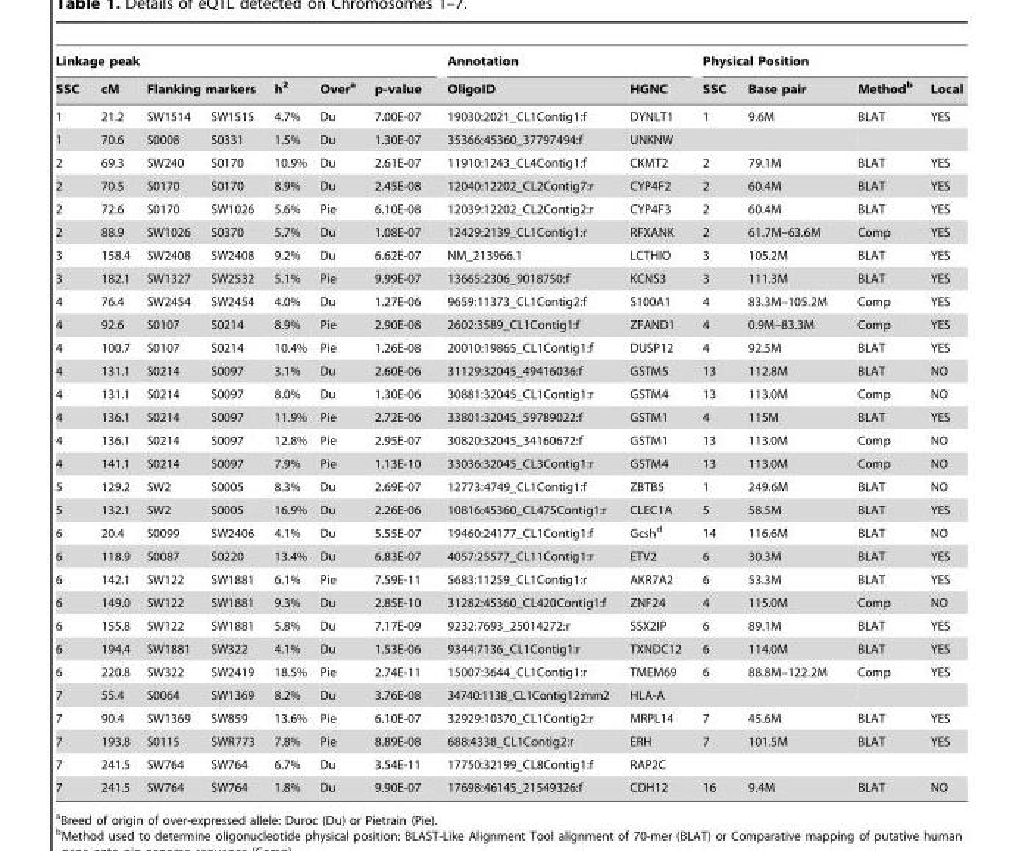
<table><thead><tr><td colspan="7">Linkage peak</td><td colspan="2">Annotation</td><td colspan="4">Physical Position</td></tr><tr><td rowspan="2">SSC 1</td><td rowspan="2">cM 21.2</td><td colspan="2">Flanking markers</td><td rowspan="2">h<sup>2</sup> 4.7%</td><td rowspan="2">Over<sup>a</sup> Du</td><td rowspan="2">p-value 7.00E-07</td><td rowspan="2">OligoID 19030:2021_CL1Contig1:f</td><td rowspan="2">HGNC DYNLT1</td><td rowspan="2">SSC 1</td><td rowspan="2">Base pair 9.6M</td><td rowspan="2">Method<sup>b</sup> BLAT</td><td rowspan="2">Local YES</td></tr><tr><td>SW1514</td><td>SW1515</td></tr></thead><tbody><tr><td>1</td><td>70.6</td><td>S0008</td><td>S0331</td><td>1.5%</td><td>Du</td><td>1.30E-07</td><td>35366:45360_37797494:f</td><td>UNKNW</td><td></td><td></td><td></td><td></td></tr><tr><td>2</td><td>69.3</td><td>SW240</td><td>S0170</td><td>10.9%</td><td>Du</td><td>2.61E-07</td><td>11910:1243_CL4Contig1:f</td><td>CKMT2</td><td>2</td><td>79.1M</td><td>BLAT</td><td>YES</td></tr><tr><td>2</td><td>70.5</td><td>S0170</td><td>S0170</td><td>8.9%</td><td>Du</td><td>2.45E-08</td><td>12040:12202_CL2Contig7:r</td><td>CYP4F2</td><td>2</td><td>60.4M</td><td>BLAT</td><td>YES</td></tr><tr><td>2</td><td>72.6</td><td>S0170</td><td>SW1026</td><td>5.6%</td><td>Pie</td><td>6.10E-08</td><td>12039:12202_CL2Contig2:r</td><td>CYP4F3</td><td>2</td><td>60.4M</td><td>BLAT</td><td>YES</td></tr><tr><td>2</td><td>88.9</td><td>SW1026</td><td>S0370</td><td>5.7%</td><td>Du</td><td>1.08E-07</td><td>12429:2139_CL1Contig1:r</td><td>RFXANK</td><td>2</td><td>61.7M–63.6M</td><td>Comp</td><td>YES</td></tr><tr><td>3</td><td>158.4</td><td>SW2408</td><td>SW2408</td><td>9.2%</td><td>Du</td><td>6.62E-07</td><td>NM_213966.1</td><td>LCTHIO</td><td>3</td><td>105.2M</td><td>BLAT</td><td>YES</td></tr><tr><td>3</td><td>182.1</td><td>SW1327</td><td>SW2532</td><td>5.1%</td><td>Pie</td><td>9.99E-07</td><td>13665:2306_9018750:f</td><td>KCNS3</td><td>3</td><td>111.3M</td><td>BLAT</td><td>YES</td></tr><tr><td>4</td><td>76.4</td><td>SW2454</td><td>SW2454</td><td>4.0%</td><td>Du</td><td>1.27E-06</td><td>9659:11373_CL1Contig2:f</td><td>S100A1</td><td>4</td><td>83.3M–105.2M</td><td>Comp</td><td>YES</td></tr><tr><td>4</td><td>92.6</td><td>S0107</td><td>S0214</td><td>8.9%</td><td>Pie</td><td>2.90E-08</td><td>2602:3589_CL1Contig1:f</td><td>ZFAND1</td><td>4</td><td>0.9M–83.3M</td><td>Comp</td><td>YES</td></tr><tr><td>4</td><td>100.7</td><td>S0107</td><td>S0214</td><td>10.4%</td><td>Pie</td><td>1.26E-08</td><td>20010:19865_CL1Contig1:f</td><td>DUSP12</td><td>4</td><td>92.5M</td><td>BLAT</td><td>YES</td></tr><tr><td>4</td><td>131.1</td><td>S0214</td><td>S0097</td><td>3.1%</td><td>Du</td><td>2.60E-06</td><td>31129:32045_49416036:f</td><td>GSTM5</td><td>13</td><td>112.8M</td><td>BLAT</td><td>NO</td></tr><tr><td>4</td><td>131.1</td><td>S0214</td><td>S0097</td><td>8.0%</td><td>Du</td><td>1.30E-06</td><td>30881:32045_CL1Contig1:r</td><td>GSTM4</td><td>13</td><td>113.0M</td><td>Comp</td><td>NO</td></tr><tr><td>4</td><td>136.1</td><td>S0214</td><td>S0097</td><td>11.9%</td><td>Pie</td><td>2.72E-06</td><td>33801:32045_59789022:f</td><td>GSTM1</td><td>4</td><td>115M</td><td>BLAT</td><td>YES</td></tr><tr><td>4</td><td>136.1</td><td>S0214</td><td>S0097</td><td>12.8%</td><td>Pie</td><td>2.95E-07</td><td>30820:32045_34160672:f</td><td>GSTM1</td><td>13</td><td>113.0M</td><td>Comp</td><td>NO</td></tr><tr><td>4</td><td>141.1</td><td>S0214</td><td>S0097</td><td>7.9%</td><td>Pie</td><td>1.13E-10</td><td>33036:32045_CL3Contig1:r</td><td>GSTM4</td><td>13</td><td>113.0M</td><td>Comp</td><td>NO</td></tr><tr><td>5</td><td>129.2</td><td>SW2</td><td>S0005</td><td>8.3%</td><td>Du</td><td>2.69E-07</td><td>12773:4749_CL1Contig1:f</td><td>ZBTB5</td><td>1</td><td>249.6M</td><td>BLAT</td><td>NO</td></tr><tr><td>5</td><td>132.1</td><td>SW2</td><td>S0005</td><td>16.9%</td><td>Du</td><td>2.26E-06</td><td>10816:45360_CL475Contig1:r</td><td>CLEC1A</td><td>5</td><td>58.5M</td><td>BLAT</td><td>YES</td></tr><tr><td>6</td><td>20.4</td><td>S0099</td><td>SW2406</td><td>4.1%</td><td>Du</td><td>5.55E-07</td><td>19460:24177_CL1Contig1:f</td><td>Gcsh<sup>d</sup></td><td>14</td><td>116.6M</td><td>BLAT</td><td>NO</td></tr><tr><td>6</td><td>118.9</td><td>S0087</td><td>S0220</td><td>13.4%</td><td>Du</td><td>6.83E-07</td><td>4057:25577_CL11Contig1:r</td><td>ETV2</td><td>6</td><td>30.3M</td><td>BLAT</td><td>YES</td></tr><tr><td>6</td><td>142.1</td><td>SW122</td><td>SW1881</td><td>6.1%</td><td>Pie</td><td>7.59E-11</td><td>5683:11259_CL1Contig1:r</td><td>AKR7A2</td><td>6</td><td>53.3M</td><td>BLAT</td><td>YES</td></tr><tr><td>6</td><td>149.0</td><td>SW122</td><td>SW1881</td><td>9.3%</td><td>Du</td><td>2.85E-10</td><td>31282:45360_CL420Contig1:f</td><td>ZNF24</td><td>4</td><td>115.0M</td><td>Comp</td><td>NO</td></tr><tr><td>6</td><td>155.8</td><td>SW122</td><td>SW1881</td><td>5.8%</td><td>Du</td><td>7.17E-09</td><td>9232:7693_25014272:r</td><td>SSX2IP</td><td>6</td><td>89.1M</td><td>BLAT</td><td>YES</td></tr><tr><td>6</td><td>194.4</td><td>SW1881</td><td>SW322</td><td>4.1%</td><td>Du</td><td>1.53E-06</td><td>9344:7136_CL1Contig1:r</td><td>TXNDC12</td><td>6</td><td>114.0M</td><td>BLAT</td><td>YES</td></tr><tr><td>6</td><td>220.8</td><td>SW322</td><td>SW2419</td><td>18.5%</td><td>Pie</td><td>2.74E-11</td><td>15007:3644_CL1Contig1:r</td><td>TMEM69</td><td>6</td><td>88.8M–122.2M</td><td>Comp</td><td>YES</td></tr><tr><td>7</td><td>55.4</td><td>S0064</td><td>SW1369</td><td>8.2%</td><td>Du</td><td>3.76E-08</td><td>34740:1138_CL1Contig12:mm2</td><td>HLA-A</td><td></td><td></td><td></td><td></td></tr><tr><td>7</td><td>90.4</td><td>SW1369</td><td>SW859</td><td>13.6%</td><td>Pie</td><td>6.10E-07</td><td>32929:10370_CL1Contig2:r</td><td>MRPL14</td><td>7</td><td>45.6M</td><td>BLAT</td><td>YES</td></tr><tr><td>7</td><td>193.8</td><td>S0115</td><td>SWR773</td><td>7.8%</td><td>Pie</td><td>8.89E-08</td><td>688:4338_CL1Contig2:r</td><td>ERH</td><td>7</td><td>101.5M</td><td>BLAT</td><td>YES</td></tr><tr><td>7</td><td>241.5</td><td>SW764</td><td>SW764</td><td>6.7%</td><td>Du</td><td>3.54E-11</td><td>17750:32199_CL8Contig1:f</td><td>RAP2C</td><td></td><td></td><td></td><td></td></tr><tr><td>7</td><td>241.5</td><td>SW764</td><td>SW764</td><td>1.8%</td><td>Du</td><td>9.90E-07</td><td>17698:46145_21549326:f</td><td>CDH12</td><td>16</td><td>9.4M</td><td>BLAT</td><td>NO</td></tr></tbody></table>